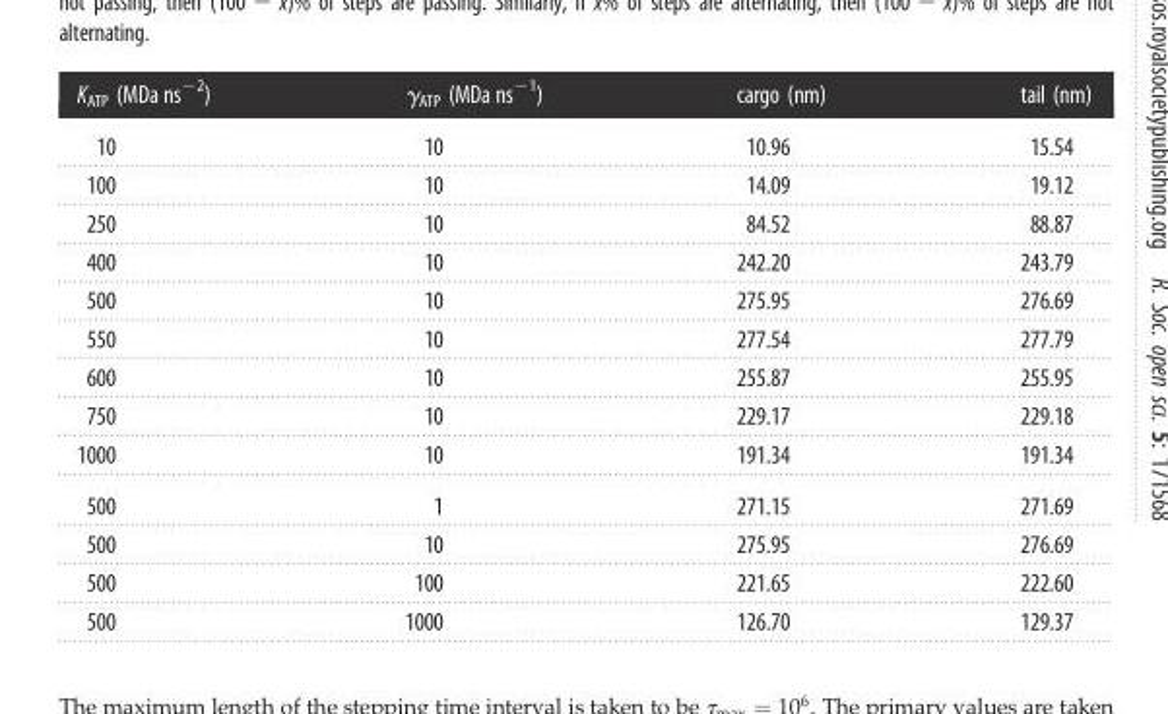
<table><thead><tr><td>K<sub>ATP</sub> (MDa ns<sup>−2</sup>)</td><td>γ<sub>ATP</sub> (MDa ns<sup>−1</sup>)</td><td>cargo (nm)</td><td>tail (nm)</td></tr></thead><tbody><tr><td>10</td><td>10</td><td>10.96</td><td>15.54</td></tr><tr><td>100</td><td>10</td><td>14.09</td><td>19.12</td></tr><tr><td>250</td><td>10</td><td>84.52</td><td>88.87</td></tr><tr><td>400</td><td>10</td><td>242.20</td><td>243.79</td></tr><tr><td>500</td><td>10</td><td>275.95</td><td>276.69</td></tr><tr><td>550</td><td>10</td><td>277.54</td><td>277.79</td></tr><tr><td>600</td><td>10</td><td>255.87</td><td>255.95</td></tr><tr><td>750</td><td>10</td><td>229.17</td><td>229.18</td></tr><tr><td>1000</td><td>10</td><td>191.34</td><td>191.34</td></tr><tr><td>500</td><td>1</td><td>271.15</td><td>271.69</td></tr><tr><td>500</td><td>10</td><td>275.95</td><td>276.69</td></tr><tr><td>500</td><td>100</td><td>221.65</td><td>222.60</td></tr><tr><td>500</td><td>1000</td><td>126.70</td><td>129.37</td></tr></tbody></table>